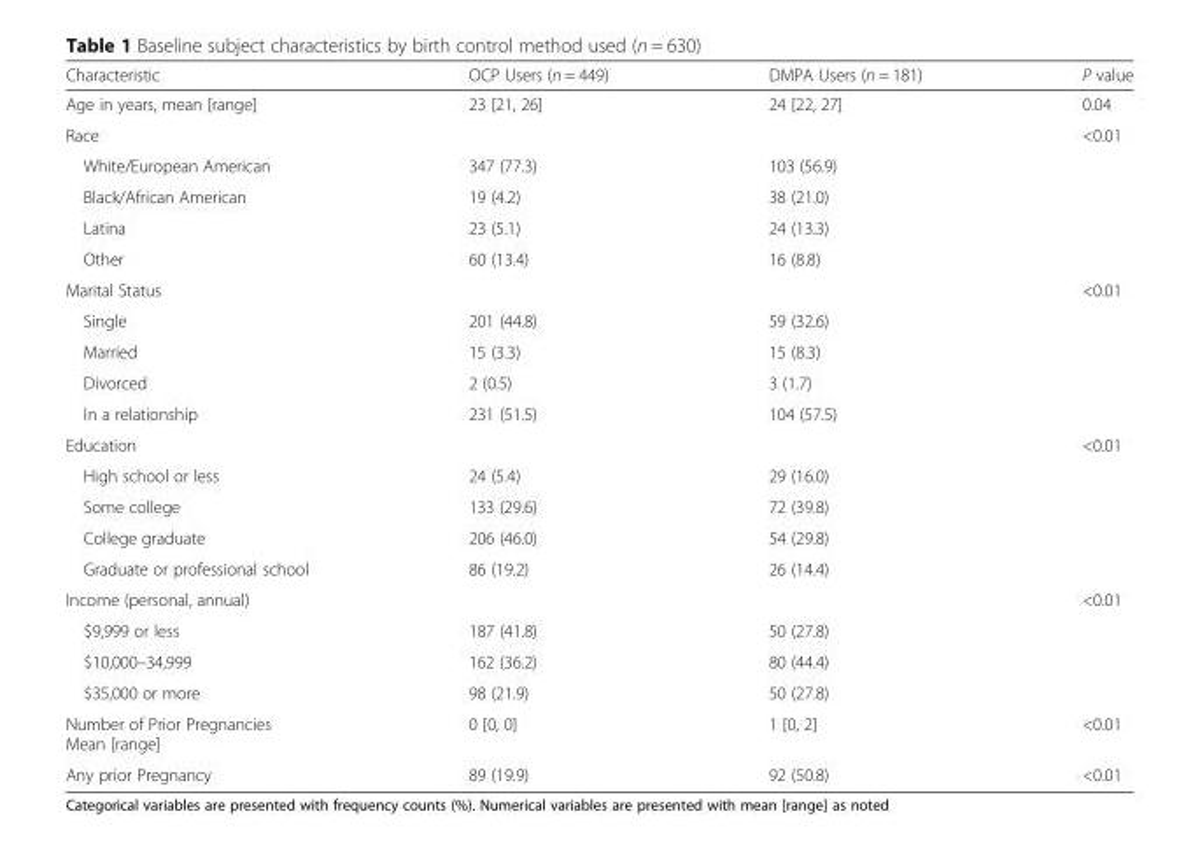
<table><thead><tr><td>Characteristic</td><td>OCP Users (n = 449)</td><td>DMPA Users (n = 181)</td><td>P value</td></tr></thead><tbody><tr><td>Age in years, mean [range]</td><td>23 [21, 26]</td><td>24 [22, 27]</td><td>0.04</td></tr><tr><td colspan="3">Race</td><td rowspan="5">&lt;0.01</td></tr><tr><td>White/European American</td><td>347 (77.3)</td><td>103 (56.9)</td></tr><tr><td>Black/African American</td><td>19 (4.2)</td><td>38 (21.0)</td></tr><tr><td>Latina</td><td>23 (5.1)</td><td>24 (13.3)</td></tr><tr><td>Other</td><td>60 (13.4)</td><td>16 (8.8)</td></tr><tr><td colspan="3">Marital Status</td><td rowspan="5">&lt;0.01</td></tr><tr><td>Single</td><td>201 (44.8)</td><td>59 (32.6)</td></tr><tr><td>Married</td><td>15 (3.3)</td><td>15 (8.3)</td></tr><tr><td>Divorced</td><td>2 (0.5)</td><td>3 (1.7)</td></tr><tr><td>In a relationship</td><td>231 (51.5)</td><td>104 (57.5)</td></tr><tr><td colspan="3">Education</td><td rowspan="5">&lt;0.01</td></tr><tr><td>High school or less</td><td>24 (5.4)</td><td>29 (16.0)</td></tr><tr><td>Some college</td><td>133 (29.6)</td><td>72 (39.8)</td></tr><tr><td>College graduate</td><td>206 (46.0)</td><td>54 (29.8)</td></tr><tr><td>Graduate or professional school</td><td>86 (19.2)</td><td>26 (14.4)</td></tr><tr><td colspan="3">Income (personal, annual)</td><td rowspan="4">&lt;0.01</td></tr><tr><td>$9,999 or less</td><td>187 (41.8)</td><td>50 (27.8)</td></tr><tr><td>$10,000–34,999</td><td>162 (36.2)</td><td>80 (44.4)</td></tr><tr><td>$35,000 or more</td><td>98 (21.9)</td><td>50 (27.8)</td></tr><tr><td>Number of Prior Pregnancies Mean [range]</td><td>0 [0, 0]</td><td>1 [0, 2]</td><td>&lt;0.01</td></tr><tr><td>Any prior Pregnancy</td><td>89 (19.9)</td><td>92 (50.8)</td><td>&lt;0.01</td></tr></tbody></table>